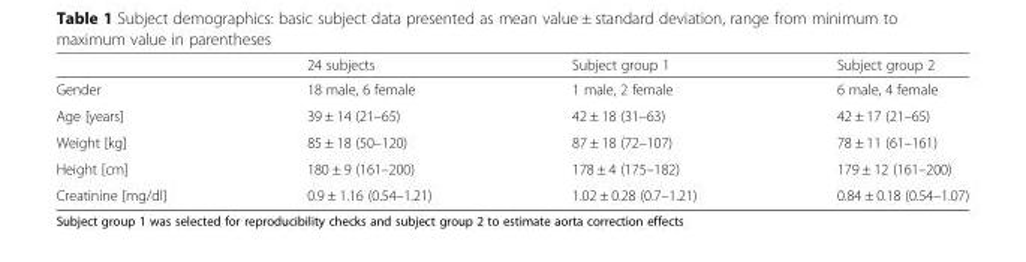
<table><thead><tr><td></td><td>24 subjects</td><td>Subject group 1</td><td>Subject group 2</td></tr></thead><tbody><tr><td>Gender</td><td>18 male, 6 female</td><td>1 male, 2 female</td><td>6 male, 4 female</td></tr><tr><td>Age [years]</td><td>39 ± 14 (21–65)</td><td>42 ± 18 (31–63)</td><td>42 ± 17 (21–65)</td></tr><tr><td>Weight [kg]</td><td>85 ± 18 (50–120)</td><td>87 ± 18 (72–107)</td><td>78 ± 11 (61–161)</td></tr><tr><td>Height [cm]</td><td>180 ± 9 (161–200)</td><td>178 ± 4 (175–182)</td><td>179 ± 12 (161–200)</td></tr><tr><td>Creatinine [mg/dl]</td><td>0.9 ± 1.16 (0.54–1.21)</td><td>1.02 ± 0.28 (0.7–1.21)</td><td>0.84 ± 0.18 (0.54–1.07)</td></tr></tbody></table>